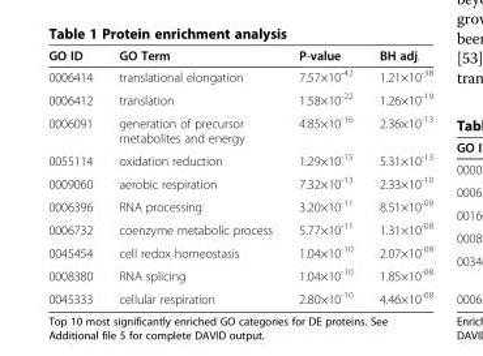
<table><thead><tr><td>GO ID</td><td>GO Term</td><td>P-value</td><td>BH adj.</td></tr></thead><tbody><tr><td>0006414</td><td>translational elongation</td><td>7.57×10<sup>-42</sup></td><td>1.21×10<sup>-38</sup></td></tr><tr><td>0006412</td><td>translation</td><td>1.58×10<sup>-22</sup></td><td>1.26×10<sup>-19</sup></td></tr><tr><td>0006091</td><td>generation of precursor metabolites and energy</td><td>4.85×10<sup>-16</sup></td><td>2.36×10<sup>-13</sup></td></tr><tr><td>0055114</td><td>oxidation reduction</td><td>1.29×10<sup>-15</sup></td><td>5.31×10<sup>-13</sup></td></tr><tr><td>0009060</td><td>aerobic respiration</td><td>7.32×10<sup>-13</sup></td><td>2.33×10<sup>-10</sup></td></tr><tr><td>0006396</td><td>RNA processing</td><td>3.20×10<sup>-11</sup></td><td>8.51×10<sup>-09</sup></td></tr><tr><td>0006732</td><td>coenzyme metabolic process</td><td>5.77×10<sup>-11</sup></td><td>1.31×10<sup>-08</sup></td></tr><tr><td>0045454</td><td>cell redox homeostasis</td><td>1.04×10<sup>-10</sup></td><td>2.07×10<sup>-08</sup></td></tr><tr><td>0008380</td><td>RNA splicing</td><td>1.04×10<sup>-10</sup></td><td>1.85×10<sup>-08</sup></td></tr><tr><td>0045333</td><td>cellular respiration</td><td>2.80×10<sup>-10</sup></td><td>4.46×10<sup>-08</sup></td></tr></tbody></table>